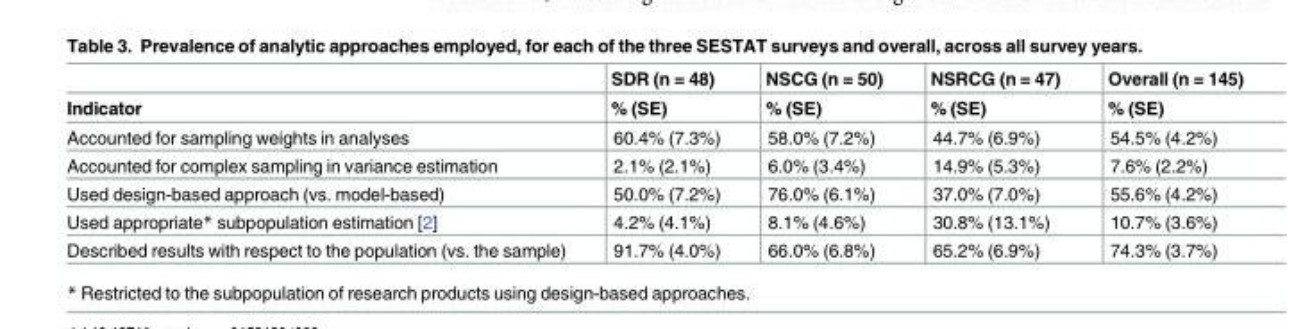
<table><thead><tr><td rowspan="2">Indicator</td><td rowspan="2">SDR (n = 48) % (SE)</td><td rowspan="2">NSCG (n = 50) % (SE)</td><td rowspan="2">NSRCG (n = 47) % (SE)</td><td rowspan="2">Overall (n = 145) % (SE)</td></tr><tr></tr></thead><tbody><tr><td>Accounted for sampling weights in analyses</td><td>60.4% (7.3%)</td><td>58.0% (7.2%)</td><td>44.7% (6.9%)</td><td>54.5% (4.2%)</td></tr><tr><td>Accounted for complex sampling in variance estimation</td><td>2.1% (2.1%)</td><td>6.0% (3.4%)</td><td>14.9% (5.3%)</td><td>7.6% (2.2%)</td></tr><tr><td>Used design-based approach (vs. model-based)</td><td>50.0% (7.2%)</td><td>76.0% (6.1%)</td><td>37.0% (7.0%)</td><td>55.6% (4.2%)</td></tr><tr><td>Used appropriate* subpopulation estimation [2]</td><td>4.2% (4.1%)</td><td>8.1% (4.6%)</td><td>30.8% (13.1%)</td><td>10.7% (3.6%)</td></tr><tr><td>Described results with respect to the population (vs. the sample)</td><td>91.7% (4.0%)</td><td>66.0% (6.8%)</td><td>65.2% (6.9%)</td><td>74.3% (3.7%)</td></tr></tbody></table>